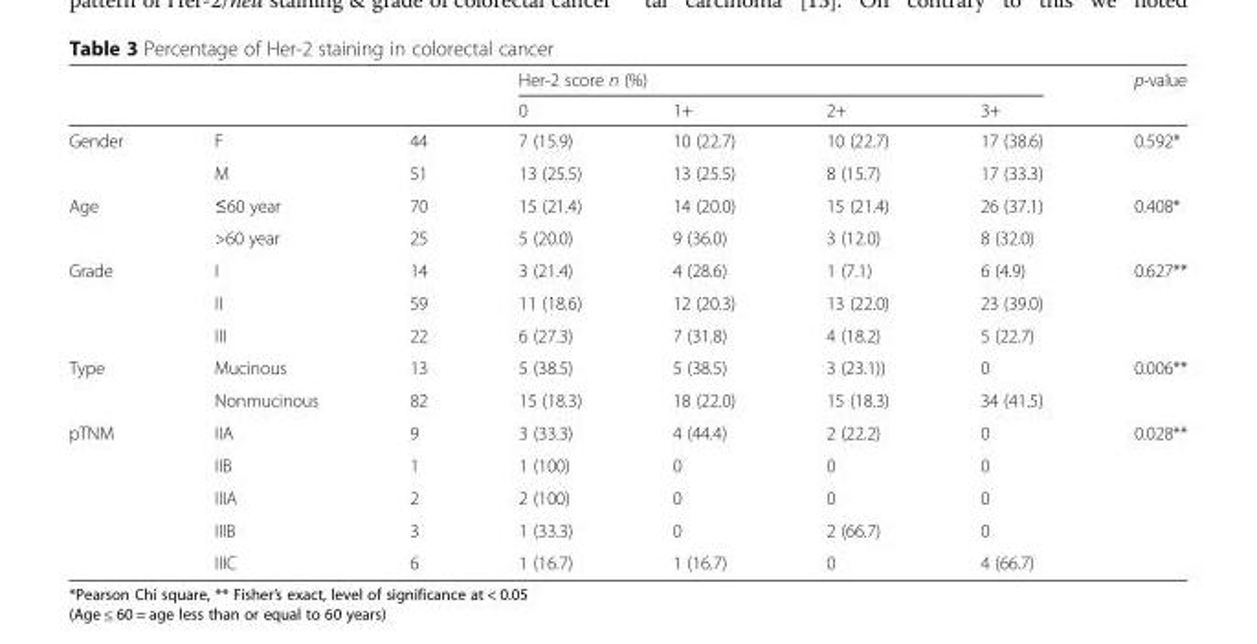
<table><thead><tr><td rowspan="2"></td><td rowspan="2"></td><td rowspan="2"></td><td colspan="4">Her-2 score n (%)</td><td rowspan="2">p-value</td></tr><tr><td>0</td><td>1+</td><td>2+</td><td>3+</td></tr></thead><tbody><tr><td rowspan="2">Gender</td><td>F</td><td>44</td><td>7 (15.9)</td><td>10 (22.7)</td><td>10 (22.7)</td><td>17 (38.6)</td><td>0.592*</td></tr><tr><td>M</td><td>51</td><td>13 (25.5)</td><td>13 (25.5)</td><td>8 (15.7)</td><td>17 (33.3)</td><td></td></tr><tr><td rowspan="2">Age</td><td>≤60 year</td><td>70</td><td>15 (21.4)</td><td>14 (20.0)</td><td>15 (21.4)</td><td>26 (37.1)</td><td>0.408*</td></tr><tr><td>&gt;60 year</td><td>25</td><td>5 (20.0)</td><td>9 (36.0)</td><td>3 (12.0)</td><td>8 (32.0)</td><td></td></tr><tr><td rowspan="3">Grade</td><td>I</td><td>14</td><td>3 (21.4)</td><td>4 (28.6)</td><td>1 (7.1)</td><td>6 (4.9)</td><td>0.627**</td></tr><tr><td>II</td><td>59</td><td>11 (18.6)</td><td>12 (20.3)</td><td>13 (22.0)</td><td>23 (39.0)</td><td></td></tr><tr><td>III</td><td>22</td><td>6 (27.3)</td><td>7 (31.8)</td><td>4 (18.2)</td><td>5 (22.7)</td><td></td></tr><tr><td rowspan="2">Type</td><td>Mucinous</td><td>13</td><td>5 (38.5)</td><td>5 (38.5)</td><td>3 (23.1))</td><td>0</td><td>0.006**</td></tr><tr><td>Nonmucinous</td><td>82</td><td>15 (18.3)</td><td>18 (22.0)</td><td>15 (18.3)</td><td>34 (41.5)</td><td></td></tr><tr><td rowspan="5">pTNM</td><td>IIA</td><td>9</td><td>3 (33.3)</td><td>4 (44.4)</td><td>2 (22.2)</td><td>0</td><td>0.028**</td></tr><tr><td>IIB</td><td>1</td><td>1 (100)</td><td>0</td><td>0</td><td>0</td><td></td></tr><tr><td>IIIA</td><td>2</td><td>2 (100)</td><td>0</td><td>0</td><td>0</td><td></td></tr><tr><td>IIIB</td><td>3</td><td>1 (33.3)</td><td>0</td><td>2 (66.7)</td><td>0</td><td></td></tr><tr><td>IIIC</td><td>6</td><td>1 (16.7)</td><td>1 (16.7)</td><td>0</td><td>4 (66.7)</td><td></td></tr></tbody></table>